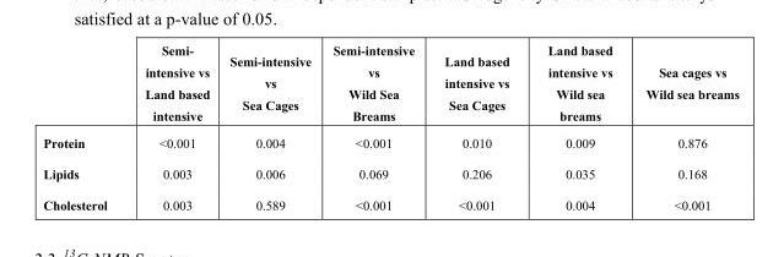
<table><thead><tr><td></td><td>Semi- intensive vs Land based intensive</td><td>Semi-intensive vs Sea Cages</td><td>Semi-intensive vs Wild Sea Breams</td><td>Land based intensive vs Sea Cages</td><td>Land based intensive vs Wild sea breams</td><td>Sea cages vs Wild sea breams</td></tr></thead><tbody><tr><td>Protein</td><td>&lt;0.001</td><td>0.004</td><td>&lt;0.001</td><td>0.010</td><td>0.009</td><td>0.876</td></tr><tr><td>Lipids</td><td>0.003</td><td>0.006</td><td>0.069</td><td>0.206</td><td>0.035</td><td>0.168</td></tr><tr><td>Cholesterol</td><td>0.003</td><td>0.589</td><td>&lt;0.001</td><td>&lt;0.001</td><td>0.004</td><td>&lt;0.001</td></tr></tbody></table>